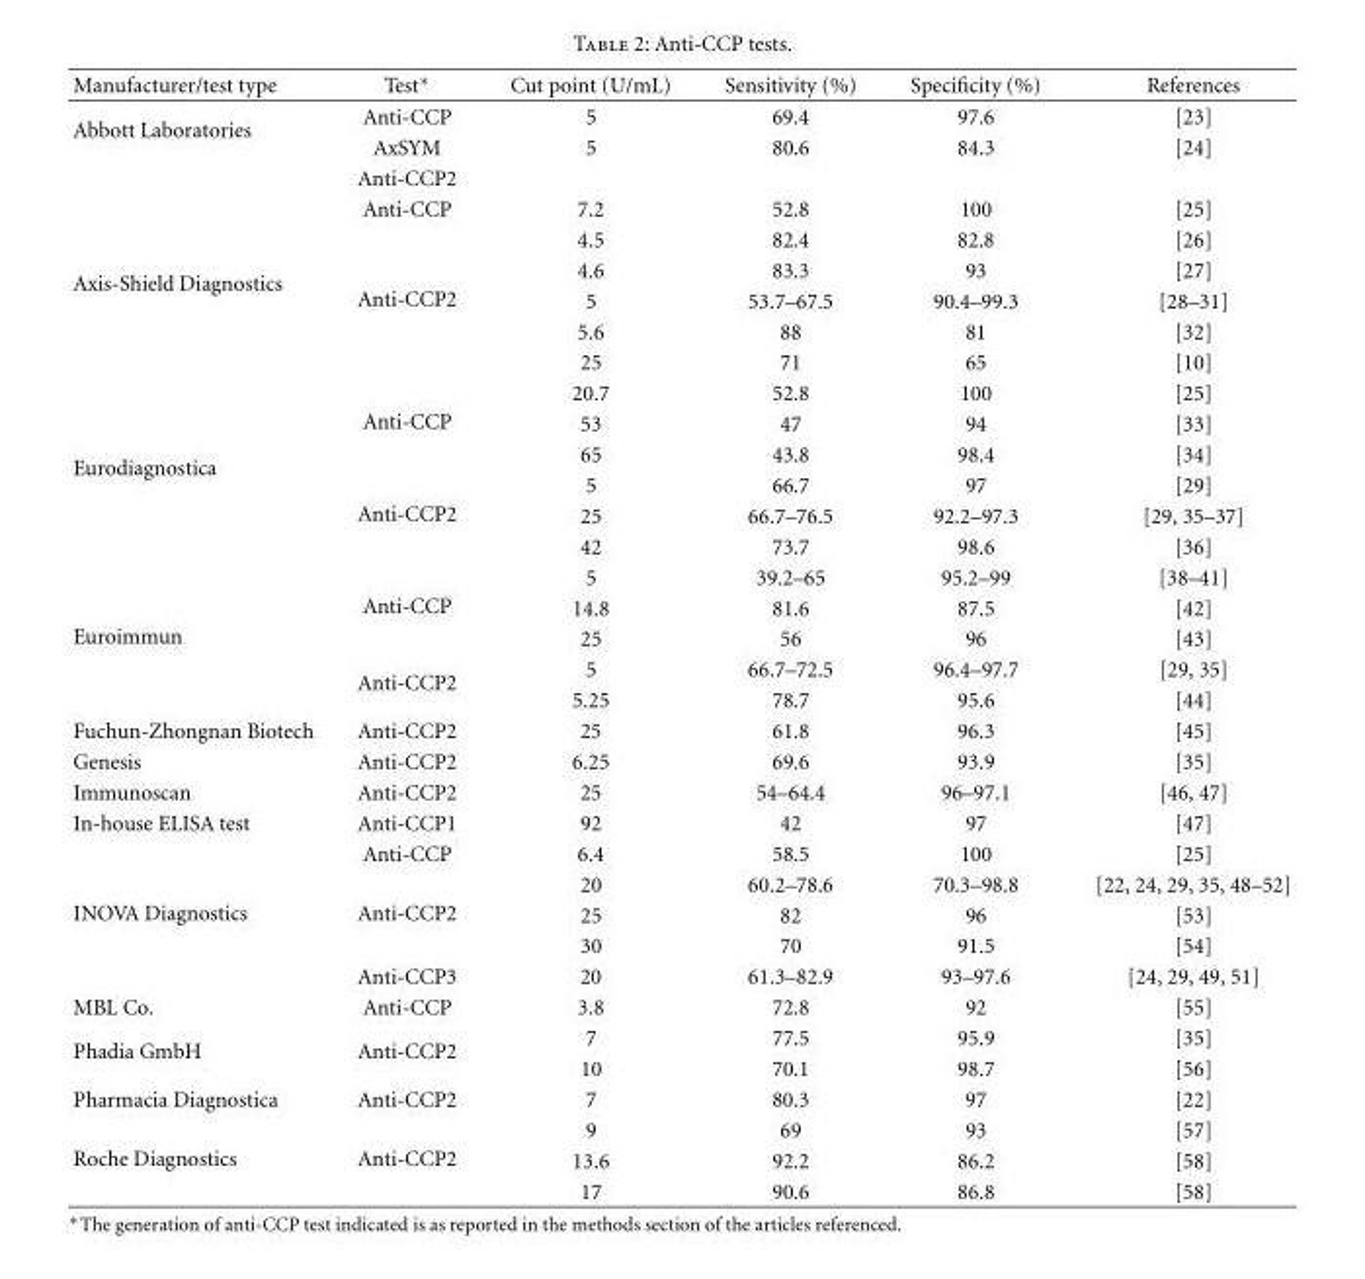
<table><thead><tr><td>Manufacturer/test type</td><td>Test∗</td><td>Cut point (U/mL)</td><td>Sensitivity (%)</td><td>Specificity (%)</td><td>References</td></tr></thead><tbody><tr><td rowspan="3">Abbott Laboratories</td><td>Anti-CCP</td><td>5</td><td>69.4</td><td>97.6</td><td>[23]</td></tr><tr><td>AxSYM</td><td>5</td><td>80.6</td><td>84.3</td><td>[24]</td></tr><tr><td>Anti-CCP2</td><td></td><td></td><td></td><td></td></tr><tr><td rowspan="6">Axis-Shield Diagnostics</td><td>Anti-CCP</td><td>7.2</td><td>52.8</td><td>100</td><td>[25]</td></tr><tr><td rowspan="5">Anti-CCP2</td><td>4.5</td><td>82.4</td><td>82.8</td><td>[26]</td></tr><tr><td>4.6</td><td>83.3</td><td>93</td><td>[27]</td></tr><tr><td>5</td><td>53.7–67.5</td><td>90.4–99.3</td><td>[28–31]</td></tr><tr><td>5.6</td><td>88</td><td>81</td><td>[32]</td></tr><tr><td>25</td><td>71</td><td>65</td><td>[10]</td></tr><tr><td rowspan="6">Eurodiagnostica</td><td rowspan="3">Anti-CCP</td><td>20.7</td><td>52.8</td><td>100</td><td>[25]</td></tr><tr><td>53</td><td>47</td><td>94</td><td>[33]</td></tr><tr><td>65</td><td>43.8</td><td>98.4</td><td>[34]</td></tr><tr><td rowspan="3">Anti-CCP2</td><td>5</td><td>66.7</td><td>97</td><td>[29]</td></tr><tr><td>25</td><td>66.7–76.5</td><td>92.2–97.3</td><td>[29, 35–37]</td></tr><tr><td>42</td><td>73.7</td><td>98.6</td><td>[36]</td></tr><tr><td rowspan="5">Euroimmun</td><td rowspan="3">Anti-CCP</td><td>5</td><td>39.2–65</td><td>95.2–99</td><td>[38–41]</td></tr><tr><td>14.8</td><td>81.6</td><td>87.5</td><td>[42]</td></tr><tr><td>25</td><td>56</td><td>96</td><td>[43]</td></tr><tr><td rowspan="2">Anti-CCP2</td><td>5</td><td>66.7–72.5</td><td>96.4–97.7</td><td>[29, 35]</td></tr><tr><td>5.25</td><td>78.7</td><td>95.6</td><td>[44]</td></tr><tr><td>Fuchun-Zhongnan Biotech</td><td>Anti-CCP2</td><td>25</td><td>61.8</td><td>96.3</td><td>[45]</td></tr><tr><td>Genesis</td><td>Anti-CCP2</td><td>6.25</td><td>69.6</td><td>93.9</td><td>[35]</td></tr><tr><td>Immunoscan</td><td>Anti-CCP2</td><td>25</td><td>54–64.4</td><td>96–97.1</td><td>[46, 47]</td></tr><tr><td>In-house ELISA test</td><td>Anti-CCP1</td><td>92</td><td>42</td><td>97</td><td>[47]</td></tr><tr><td rowspan="5">INOVA Diagnostics</td><td>Anti-CCP</td><td>6.4</td><td>58.5</td><td>100</td><td>[25]</td></tr><tr><td rowspan="3">Anti-CCP2</td><td>20</td><td>60.2–78.6</td><td>70.3–98.8</td><td>[22, 24, 29, 35, 48–52]</td></tr><tr><td>25</td><td>82</td><td>96</td><td>[53]</td></tr><tr><td>30</td><td>70</td><td>91.5</td><td>[54]</td></tr><tr><td>Anti-CCP3</td><td>20</td><td>61.3–82.9</td><td>93–97.6</td><td>[24, 29, 49, 51]</td></tr><tr><td>MBL Co.</td><td>Anti-CCP</td><td>3.8</td><td>72.8</td><td>92</td><td>[55]</td></tr><tr><td rowspan="2">Phadia GmbH</td><td rowspan="2">Anti-CCP2</td><td>7</td><td>77.5</td><td>95.9</td><td>[35]</td></tr><tr><td>10</td><td>70.1</td><td>98.7</td><td>[56]</td></tr><tr><td>Pharmacia Diagnostica</td><td>Anti-CCP2</td><td>7</td><td>80.3</td><td>97</td><td>[22]</td></tr><tr><td rowspan="3">Roche Diagnostics</td><td rowspan="3">Anti-CCP2</td><td>9</td><td>69</td><td>93</td><td>[57]</td></tr><tr><td>13.6</td><td>92.2</td><td>86.2</td><td>[58]</td></tr><tr><td>17</td><td>90.6</td><td>86.8</td><td>[58]</td></tr></tbody></table>